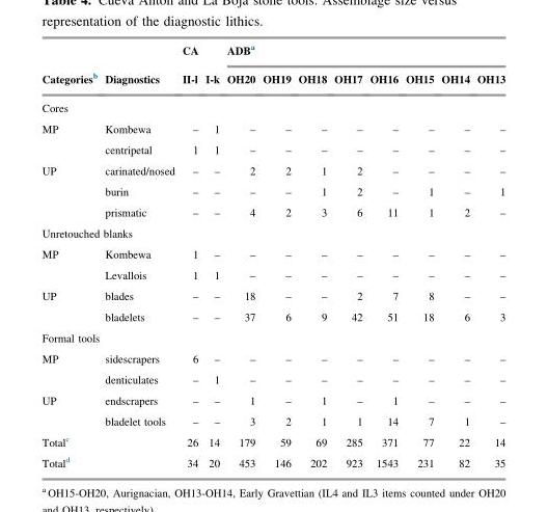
<table><thead><tr><td rowspan="2">Categories<sup>b</sup></td><td rowspan="2">Diagnostics</td><td rowspan="2">CA II-l</td><td rowspan="2">I-k</td><td colspan="8">ADB<sup>a</sup></td></tr><tr><td>OH20</td><td>OH19</td><td>OH18</td><td>OH17</td><td>OH16</td><td>OH15</td><td>OH14</td><td>OH13</td></tr></thead><tbody><tr><td colspan="12">Cores</td></tr><tr><td rowspan="2">MP</td><td>Kombewa</td><td>–</td><td>1</td><td>–</td><td>–</td><td>–</td><td>–</td><td>–</td><td>–</td><td>–</td><td>–</td></tr><tr><td>centripetal</td><td>1</td><td>1</td><td>–</td><td>–</td><td>–</td><td>–</td><td>–</td><td>–</td><td>–</td><td>–</td></tr><tr><td rowspan="3">UP</td><td>carinated/nosed</td><td>–</td><td>–</td><td>2</td><td>2</td><td>1</td><td>2</td><td>–</td><td>–</td><td>–</td><td>–</td></tr><tr><td>burin</td><td>–</td><td>–</td><td>–</td><td>–</td><td>1</td><td>2</td><td>–</td><td>1</td><td>–</td><td>1</td></tr><tr><td>prismatic</td><td>–</td><td>–</td><td>4</td><td>2</td><td>3</td><td>6</td><td>11</td><td>1</td><td>2</td><td>–</td></tr><tr><td colspan="12">Unretouched blanks</td></tr><tr><td rowspan="2">MP</td><td>Kombewa</td><td>1</td><td>–</td><td>–</td><td>–</td><td>–</td><td>–</td><td>–</td><td>–</td><td>–</td><td>–</td></tr><tr><td>Levallois</td><td>1</td><td>1</td><td>–</td><td>–</td><td>–</td><td>–</td><td>–</td><td>–</td><td>–</td><td>–</td></tr><tr><td rowspan="2">UP</td><td>blades</td><td>–</td><td>–</td><td>18</td><td>–</td><td>–</td><td>2</td><td>7</td><td>8</td><td>–</td><td>–</td></tr><tr><td>bladelets</td><td>–</td><td>–</td><td>37</td><td>6</td><td>9</td><td>42</td><td>51</td><td>18</td><td>6</td><td>3</td></tr><tr><td colspan="12">Formal tools</td></tr><tr><td rowspan="2">MP</td><td>sidescrapers</td><td>6</td><td>–</td><td>–</td><td>–</td><td>–</td><td>–</td><td>–</td><td>–</td><td>–</td><td>–</td></tr><tr><td>denticulates</td><td>–</td><td>1</td><td>–</td><td>–</td><td>–</td><td>–</td><td>–</td><td>–</td><td>–</td><td>–</td></tr><tr><td rowspan="2">UP</td><td>endscrapers</td><td>–</td><td>–</td><td>1</td><td>–</td><td>1</td><td>–</td><td>1</td><td>–</td><td>–</td><td>–</td></tr><tr><td>bladelet tools</td><td>–</td><td>–</td><td>3</td><td>2</td><td>1</td><td>1</td><td>14</td><td>7</td><td>1</td><td>–</td></tr><tr><td>Total<sup>c</sup></td><td></td><td>26</td><td>14</td><td>179</td><td>59</td><td>69</td><td>285</td><td>371</td><td>77</td><td>22</td><td>14</td></tr><tr><td>Total<sup>d</sup></td><td></td><td>34</td><td>20</td><td>453</td><td>146</td><td>202</td><td>923</td><td>1543</td><td>231</td><td>82</td><td>35</td></tr></tbody></table>